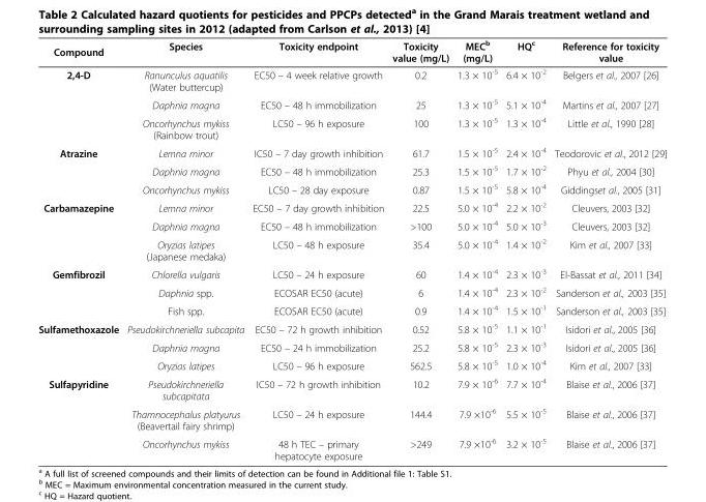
<table><thead><tr><td>Compound</td><td>Species</td><td>Toxicity endpoint</td><td>Toxicity value (mg/L)</td><td>MEC<sup>b</sup> (mg/L)</td><td>HQ<sup>c</sup></td><td>Reference for toxicity value</td></tr></thead><tbody><tr><td rowspan="3">2,4-D</td><td>Ranunculus aquatilis (Water buttercup)</td><td>EC50 – 4 week relative growth</td><td>0.2</td><td>1.3 × 10<sup>-5</sup></td><td>6.4 × 10<sup>-2</sup></td><td>Belgers et al., 2007 [26]</td></tr><tr><td>Daphnia magna</td><td>EC50 – 48 h immobilization</td><td>25</td><td>1.3 × 10<sup>-5</sup></td><td>5.1 × 10<sup>-4</sup></td><td>Martins et al., 2007 [27]</td></tr><tr><td>Oncorhynchus mykiss (Rainbow trout)</td><td>LC50 – 96 h exposure</td><td>100</td><td>1.3 × 10<sup>-5</sup></td><td>1.3 × 10<sup>-4</sup></td><td>Little et al., 1990 [28]</td></tr><tr><td rowspan="3">Atrazine</td><td>Lemna minor</td><td>IC50 – 7 day growth inhibition</td><td>61.7</td><td>1.5 × 10<sup>-5</sup></td><td>2.4 × 10<sup>-4</sup></td><td>Teodorovic et al., 2012 [29]</td></tr><tr><td>Daphnia magna</td><td>EC50 – 48 h immobilization</td><td>25.3</td><td>1.5 × 10<sup>-5</sup></td><td>1.7 × 10<sup>-2</sup></td><td>Phyu et al., 2004 [30]</td></tr><tr><td>Oncorhynchus mykiss</td><td>LC50 – 28 day exposure</td><td>0.87</td><td>1.5 × 10<sup>-5</sup></td><td>5.8 × 10<sup>-4</sup></td><td>Giddingset al., 2005 [31]</td></tr><tr><td rowspan="3">Carbamazepine</td><td>Lemna minor</td><td>EC50 – 7 day growth inhibition</td><td>22.5</td><td>5.0 × 10<sup>-4</sup></td><td>2.2 × 10<sup>-2</sup></td><td>Cleuvers, 2003 [32]</td></tr><tr><td>Daphnia magna</td><td>EC50 – 48 h immobilization</td><td>&gt;100</td><td>5.0 × 10<sup>-4</sup></td><td>5.0 × 10<sup>-3</sup></td><td>Cleuvers, 2003 [32]</td></tr><tr><td>Oryzias latipes (Japanese medaka)</td><td>LC50 – 48 h exposure</td><td>35.4</td><td>5.0 × 10<sup>-4</sup></td><td>1.4 × 10<sup>-2</sup></td><td>Kim et al., 2007 [33]</td></tr><tr><td rowspan="3">Gemfibrozil</td><td>Chlorella vulgaris</td><td>LC50 – 24 h exposure</td><td>60</td><td>1.4 × 10<sup>-4</sup></td><td>2.3 × 10<sup>-3</sup></td><td>El-Bassat et al., 2011 [34]</td></tr><tr><td>Daphnia spp.</td><td>ECOSAR EC50 (acute)</td><td>6</td><td>1.4 × 10<sup>-4</sup></td><td>2.3 × 10<sup>-2</sup></td><td>Sanderson et al., 2003 [35]</td></tr><tr><td>Fish spp.</td><td>ECOSAR EC50 (acute)</td><td>0.9</td><td>1.4 × 10<sup>-4</sup></td><td>1.5 × 10<sup>-1</sup></td><td>Sanderson et al., 2003 [35]</td></tr><tr><td rowspan="3">Sulfamethoxazole</td><td>Pseudokirchneriella subcapita</td><td>EC50 – 72 h growth inhibition</td><td>0.52</td><td>5.8 × 10<sup>-5</sup></td><td>1.1 × 10<sup>-1</sup></td><td>Isidori et al., 2005 [36]</td></tr><tr><td>Daphnia magna</td><td>EC50 – 24 h immobilization</td><td>25.2</td><td>5.8 × 10<sup>-5</sup></td><td>2.3 × 10<sup>-3</sup></td><td>Isidori et al., 2005 [36]</td></tr><tr><td>Oryzias latipes</td><td>LC50 – 96 h exposure</td><td>562.5</td><td>5.8 × 10<sup>-5</sup></td><td>1.0 × 10<sup>-4</sup></td><td>Kim et al., 2007 [33]</td></tr><tr><td rowspan="3">Sulfapyridine</td><td>Pseudokirchneriella subcapitata</td><td>IC50 – 72 h growth inhibition</td><td>10.2</td><td>7.9 × 10<sup>-6</sup></td><td>7.7 × 10<sup>-4</sup></td><td>Blaise et al., 2006 [37]</td></tr><tr><td>Thamnocephalus platyurus (Beavertail fairy shrimp)</td><td>LC50 – 24 h exposure</td><td>144.4</td><td>7.9 ×10<sup>-6</sup></td><td>5.5 × 10<sup>-5</sup></td><td>Blaise et al., 2006 [37]</td></tr><tr><td>Oncorhynchus mykiss</td><td>48 h TEC – primary hepatocyte exposure</td><td>&gt;249</td><td>7.9 ×10<sup>-6</sup></td><td>3.2 × 10<sup>-5</sup></td><td>Blaise et al., 2006 [37]</td></tr></tbody></table>